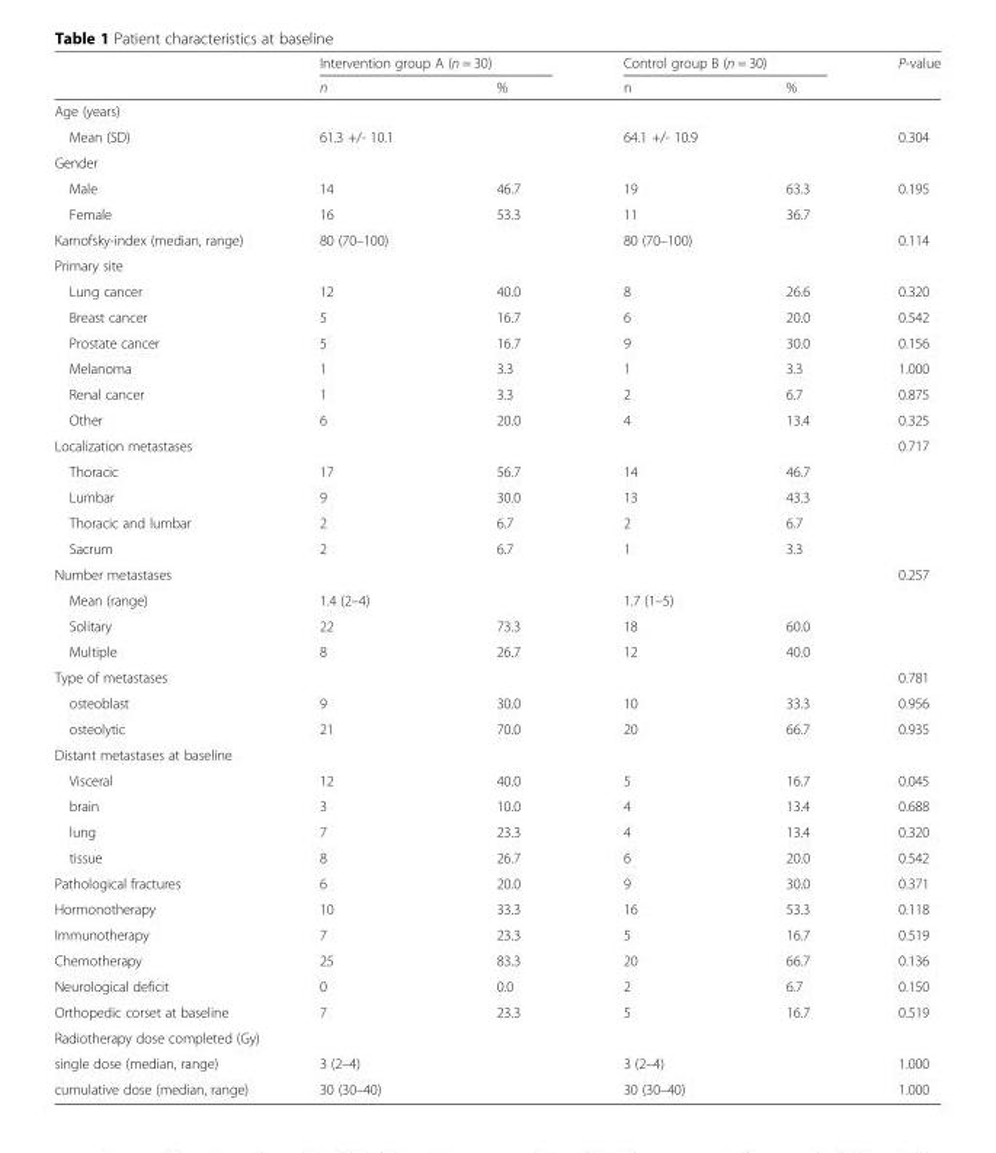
<table><thead><tr><td rowspan="2"></td><td colspan="2">Intervention group A (n = 30)</td><td colspan="2">Control group B (n = 30)</td><td rowspan="2">P-value</td></tr><tr><td>n</td><td>%</td><td>n</td><td>%</td></tr></thead><tbody><tr><td colspan="6">Age (years)</td></tr><tr><td>Mean (SD)</td><td>61.3 +/- 10.1</td><td></td><td>64.1 +/- 10.9</td><td></td><td>0.304</td></tr><tr><td colspan="6">Gender</td></tr><tr><td>Male</td><td>14</td><td>46.7</td><td>19</td><td>63.3</td><td>0.195</td></tr><tr><td>Female</td><td>16</td><td>53.3</td><td>11</td><td>36.7</td><td></td></tr><tr><td>Karnofsky-index (median, range)</td><td>80 (70–100)</td><td></td><td>80 (70–100)</td><td></td><td>0.114</td></tr><tr><td colspan="6">Primary site</td></tr><tr><td>Lung cancer</td><td>12</td><td>40.0</td><td>8</td><td>26.6</td><td>0.320</td></tr><tr><td>Breast cancer</td><td>5</td><td>16.7</td><td>6</td><td>20.0</td><td>0.542</td></tr><tr><td>Prostate cancer</td><td>5</td><td>16.7</td><td>9</td><td>30.0</td><td>0.156</td></tr><tr><td>Melanoma</td><td>1</td><td>3.3</td><td>1</td><td>3.3</td><td>1.000</td></tr><tr><td>Renal cancer</td><td>1</td><td>3.3</td><td>2</td><td>6.7</td><td>0.875</td></tr><tr><td>Other</td><td>6</td><td>20.0</td><td>4</td><td>13.4</td><td>0.325</td></tr><tr><td>Localization metastases</td><td></td><td></td><td></td><td></td><td>0.717</td></tr><tr><td>Thoracic</td><td>17</td><td>56.7</td><td>14</td><td>46.7</td><td></td></tr><tr><td>Lumbar</td><td>9</td><td>30.0</td><td>13</td><td>43.3</td><td></td></tr><tr><td>Thoracic and lumbar</td><td>2</td><td>6.7</td><td>2</td><td>6.7</td><td></td></tr><tr><td>Sacrum</td><td>2</td><td>6.7</td><td>1</td><td>3.3</td><td></td></tr><tr><td>Number metastases</td><td></td><td></td><td></td><td></td><td>0.257</td></tr><tr><td>Mean (range)</td><td>1.4 (2–4)</td><td></td><td>1.7 (1–5)</td><td></td><td></td></tr><tr><td>Solitary</td><td>22</td><td>73.3</td><td>18</td><td>60.0</td><td></td></tr><tr><td>Multiple</td><td>8</td><td>26.7</td><td>12</td><td>40.0</td><td></td></tr><tr><td>Type of metastases</td><td></td><td></td><td></td><td></td><td>0.781</td></tr><tr><td>osteoblast</td><td>9</td><td>30.0</td><td>10</td><td>33.3</td><td>0.956</td></tr><tr><td>osteolytic</td><td>21</td><td>70.0</td><td>20</td><td>66.7</td><td>0.935</td></tr><tr><td colspan="6">Distant metastases at baseline</td></tr><tr><td>Visceral</td><td>12</td><td>40.0</td><td>5</td><td>16.7</td><td>0.045</td></tr><tr><td>brain</td><td>3</td><td>10.0</td><td>4</td><td>13.4</td><td>0.688</td></tr><tr><td>lung</td><td>7</td><td>23.3</td><td>4</td><td>13.4</td><td>0.320</td></tr><tr><td>tissue</td><td>8</td><td>26.7</td><td>6</td><td>20.0</td><td>0.542</td></tr><tr><td>Pathological fractures</td><td>6</td><td>20.0</td><td>9</td><td>30.0</td><td>0.371</td></tr><tr><td>Hormonotherapy</td><td>10</td><td>33.3</td><td>16</td><td>53.3</td><td>0.118</td></tr><tr><td>Immunotherapy</td><td>7</td><td>23.3</td><td>5</td><td>16.7</td><td>0.519</td></tr><tr><td>Chemotherapy</td><td>25</td><td>83.3</td><td>20</td><td>66.7</td><td>0.136</td></tr><tr><td>Neurological deficit</td><td>0</td><td>0.0</td><td>2</td><td>6.7</td><td>0.150</td></tr><tr><td>Orthopedic corset at baseline</td><td>7</td><td>23.3</td><td>5</td><td>16.7</td><td>0.519</td></tr><tr><td colspan="6">Radiotherapy dose completed (Gy)</td></tr><tr><td>single dose (median, range)</td><td>3 (2–4)</td><td></td><td>3 (2–4)</td><td></td><td>1.000</td></tr><tr><td>cumulative dose (median, range)</td><td>30 (30–40)</td><td></td><td>30 (30–40)</td><td></td><td>1.000</td></tr></tbody></table>